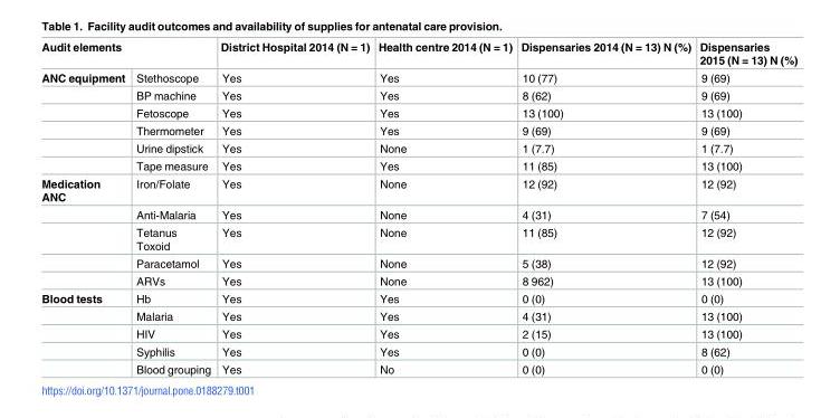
<table><thead><tr><td colspan="2">Audit elements</td><td rowspan="2">District Hospital 2014 (N = 1) Yes</td><td rowspan="2">Health centre 2014 (N = 1) Yes</td><td rowspan="2">Dispensaries 2014 (N = 13) N (%) 10 (77)</td><td rowspan="2">Dispensaries 2015 (N = 13) N (%) 9 (69)</td></tr><tr><td>ANC equipment</td><td>Stethoscope</td></tr></thead><tbody><tr><td></td><td>BP machine</td><td>Yes</td><td>Yes</td><td>8 (62)</td><td>9 (69)</td></tr><tr><td></td><td>Fetoscope</td><td>Yes</td><td>Yes</td><td>13 (100)</td><td>13 (100)</td></tr><tr><td></td><td>Thermometer</td><td>Yes</td><td>Yes</td><td>9 (69)</td><td>9 (69)</td></tr><tr><td></td><td>Urine dipstick</td><td>Yes</td><td>None</td><td>1 (7.7)</td><td>1 (7.7)</td></tr><tr><td></td><td>Tape measure</td><td>Yes</td><td>Yes</td><td>11 (85)</td><td>13 (100)</td></tr><tr><td rowspan="5">Medication ANC</td><td>Iron/Folate</td><td>Yes</td><td>None</td><td>12 (92)</td><td>12 (92)</td></tr><tr><td>Anti-Malaria</td><td>Yes</td><td>None</td><td>4 (31)</td><td>7 (54)</td></tr><tr><td>Tetanus Toxoid</td><td>Yes</td><td>None</td><td>11 (85)</td><td>12 (92)</td></tr><tr><td>Paracetamol</td><td>Yes</td><td>None</td><td>5 (38)</td><td>12 (92)</td></tr><tr><td>ARVs</td><td>Yes</td><td>None</td><td>8 962)</td><td>13 (100)</td></tr><tr><td rowspan="5">Blood tests</td><td>Hb</td><td>Yes</td><td>Yes</td><td>0 (0)</td><td>0 (0)</td></tr><tr><td>Malaria</td><td>Yes</td><td>Yes</td><td>4 (31)</td><td>13 (100)</td></tr><tr><td>HIV</td><td>Yes</td><td>Yes</td><td>2 (15)</td><td>13 (100)</td></tr><tr><td>Syphilis</td><td>Yes</td><td>Yes</td><td>0 (0)</td><td>8 (62)</td></tr><tr><td>Blood grouping</td><td>Yes</td><td>No</td><td>0 (0)</td><td>0 (0)</td></tr></tbody></table>